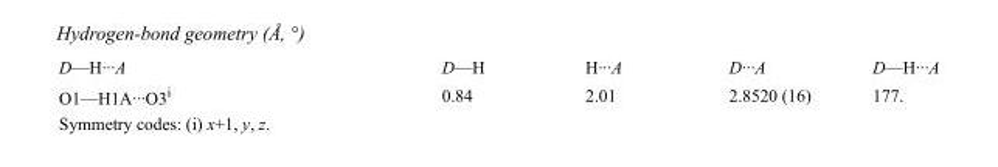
<table><tbody><tr><td>D—H···A</td><td>D—H</td><td>H···A</td><td>D···A</td><td>D—H···A</td></tr><tr><td>O1—H1A···O3<sup>i</sup></td><td>0.84</td><td>2.01</td><td>2.8520 (16)</td><td>177.</td></tr></tbody></table>